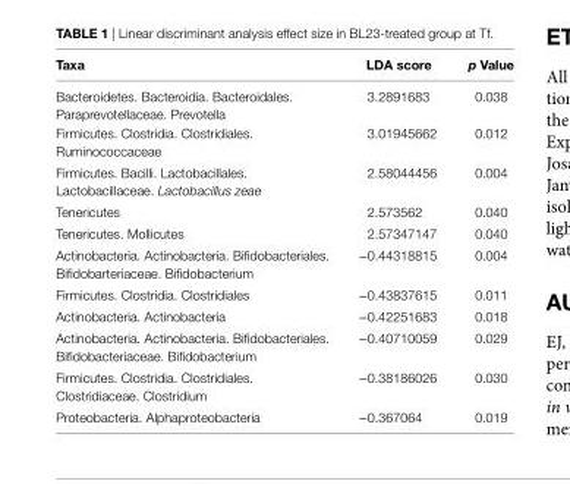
<table><thead><tr><td>Taxa</td><td>lDa score</td><td>p Value</td></tr></thead><tbody><tr><td>Bacteroidetes. Bacteroidia. Bacteroidales. Paraprevotellaceae. Prevotella</td><td>3.2891683</td><td>0.038</td></tr><tr><td>Firmicutes. Clostridia. Clostridiales. Ruminococcaceae</td><td>3.01945662</td><td>0.012</td></tr><tr><td>Firmicutes. Bacilli. Lactobacillales. Lactobacillaceae. Lactobacillus zeae</td><td>2.58044456</td><td>0.004</td></tr><tr><td>Tenericutes</td><td>2.573562</td><td>0.040</td></tr><tr><td>Tenericutes. Mollicutes</td><td>2.57347147</td><td>0.040</td></tr><tr><td>Actinobacteria. Actinobacteria. Bifidobacteriales. Bifidobarteriaceae. Bifidobacterium</td><td>−0.44318815</td><td>0.004</td></tr><tr><td>Firmicutes. Clostridia. Clostridiales</td><td>−0.43837615</td><td>0.011</td></tr><tr><td>Actinobacteria. Actinobacteria</td><td>−0.42251683</td><td>0.018</td></tr><tr><td>Actinobacteria. Actinobacteria. Bifidobacteriales. Bifidobacteriaceae. Bifidobacterium</td><td>−0.40710059</td><td>0.029</td></tr><tr><td>Firmicutes. Clostridia. Clostridiales. Clostridiaceae. Clostridium</td><td>−0.38186026</td><td>0.030</td></tr><tr><td>Proteobacteria. Alphaproteobacteria</td><td>−0.367064</td><td>0.019</td></tr></tbody></table>